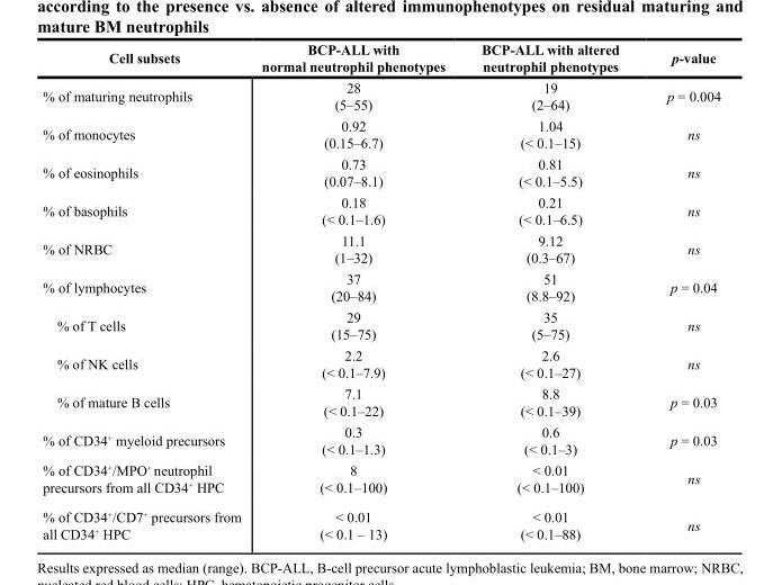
<table><thead><tr><td>Cell subsets</td><td>BCP‑ALL with normal neutrophil phenotypes</td><td>BCP‑ALL with altered neutrophil phenotypes</td><td>p‑value</td></tr></thead><tbody><tr><td>% of maturing neutrophils</td><td>28 (5–55)</td><td>19 (2–64)</td><td>p = 0.004</td></tr><tr><td>% of monocytes</td><td>0.92 (0.15–6.7)</td><td>1.04 (&lt; 0.1–15)</td><td>ns</td></tr><tr><td>% of eosinophils</td><td>0.73 (0.07–8.1)</td><td>0.81 (&lt; 0.1–5.5)</td><td>ns</td></tr><tr><td>% of basophils</td><td>0.18 (&lt; 0.1–1.6)</td><td>0.21 (&lt; 0.1–6.5)</td><td>ns</td></tr><tr><td>% of NRBC</td><td>11.1 (1–32)</td><td>9.12 (0.3–67)</td><td>ns</td></tr><tr><td>% of lymphocytes</td><td>37 (20–84)</td><td>51 (8.8–92)</td><td>p = 0.04</td></tr><tr><td>% of T cells</td><td>29 (15–75)</td><td>35 (5–75)</td><td>ns</td></tr><tr><td>% of NK cells</td><td>2.2 (&lt; 0.1–7.9)</td><td>2.6 (&lt; 0.1–27)</td><td>ns</td></tr><tr><td>% of mature B cells</td><td>7.1 (&lt; 0.1–22)</td><td>8.8 (&lt; 0.1–39)</td><td>p = 0.03</td></tr><tr><td>% of CD34<sup>+</sup> myeloid precursors</td><td>0.3 (&lt; 0.1–1.3)</td><td>0.6 (&lt; 0.1–3)</td><td>p = 0.03</td></tr><tr><td>% of CD34<sup>+</sup>/MPO<sup>+</sup> neutrophil precursors from all CD34<sup>+</sup> HPC</td><td>8 (&lt; 0.1–100)</td><td>&lt; 0.01 (&lt; 0.1–100)</td><td>ns</td></tr><tr><td>% of CD34<sup>+</sup>/CD7<sup>+</sup> precursors from all CD34<sup>+</sup> HPC</td><td>&lt; 0.01 (&lt; 0.1 – 13)</td><td>&lt; 0.01 (&lt; 0.1–88)</td><td>ns</td></tr></tbody></table>